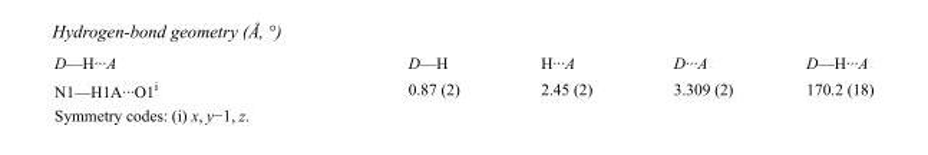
<table><tbody><tr><td>D—H···A</td><td>D—H</td><td>H···A</td><td>D···A</td><td>D—H···A</td></tr><tr><td>N1—H1A···O1<sup>i</sup></td><td>0.87 (2)</td><td>2.45 (2)</td><td>3.309 (2)</td><td>170.2 (18)</td></tr></tbody></table>